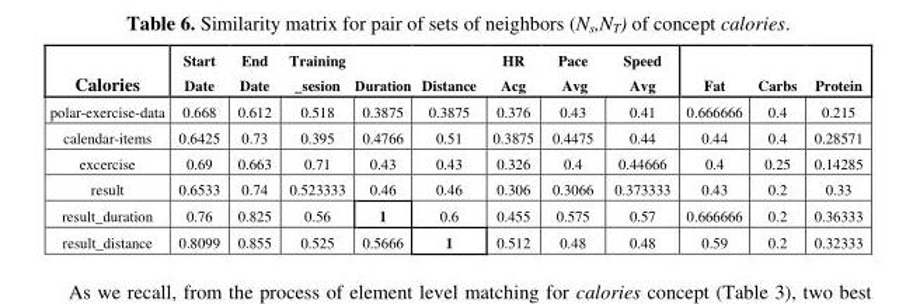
<table><thead><tr><td>Calories</td><td>Start Date</td><td>End Date</td><td>Training _sesion</td><td>Duration</td><td>Distance</td><td>HR Acg</td><td>Pace Avg</td><td>Speed Avg</td><td>Fat</td><td>Carbs</td><td>Protein</td></tr></thead><tbody><tr><td>polar-exercise-data</td><td>0.668</td><td>0.612</td><td>0.518</td><td>0.3875</td><td>0.3875</td><td>0.376</td><td>0.43</td><td>0.41</td><td>0.666666</td><td>0.4</td><td>0.215</td></tr><tr><td>calendar-items</td><td>0.6425</td><td>0.73</td><td>0.395</td><td>0.4766</td><td>0.51</td><td>0.3875</td><td>0.4475</td><td>0.44</td><td>0.44</td><td>0.4</td><td>0.28571</td></tr><tr><td>excercise</td><td>0.69</td><td>0.663</td><td>0.71</td><td>0.43</td><td>0.43</td><td>0.326</td><td>0.4</td><td>0.44666</td><td>0.4</td><td>0.25</td><td>0.14285</td></tr><tr><td>result</td><td>0.6533</td><td>0.74</td><td>0.523333</td><td>0.46</td><td>0.46</td><td>0.306</td><td>0.3066</td><td>0.373333</td><td>0.43</td><td>0.2</td><td>0.33</td></tr><tr><td>result_duration</td><td>0.76</td><td>0.825</td><td>0.56</td><td>1</td><td>0.6</td><td>0.455</td><td>0.575</td><td>0.57</td><td>0.666666</td><td>0.2</td><td>0.36333</td></tr><tr><td>result_distance</td><td>0.8099</td><td>0.855</td><td>0.525</td><td>0.5666</td><td>1</td><td>0.512</td><td>0.48</td><td>0.48</td><td>0.59</td><td>0.2</td><td>0.32333</td></tr></tbody></table>